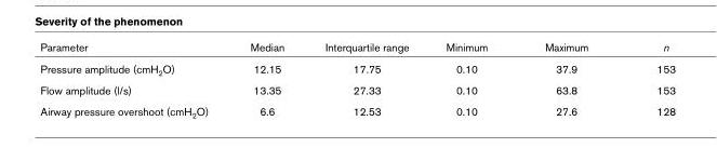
<table><thead><tr><td>Parameter</td><td>Median</td><td>Interquartile range</td><td>Minimum</td><td>Maximum</td><td>n</td></tr></thead><tbody><tr><td>Pressure amplitude (cmH2O)</td><td>12.15</td><td>17.75</td><td>0.10</td><td>37.9</td><td>153</td></tr><tr><td>Flow amplitude (l/s)</td><td>13.35</td><td>27.33</td><td>0.10</td><td>63.8</td><td>153</td></tr><tr><td>Airway pressure overshoot (cmH2O)</td><td>6.6</td><td>12.53</td><td>0.10</td><td>27.6</td><td>128</td></tr></tbody></table>